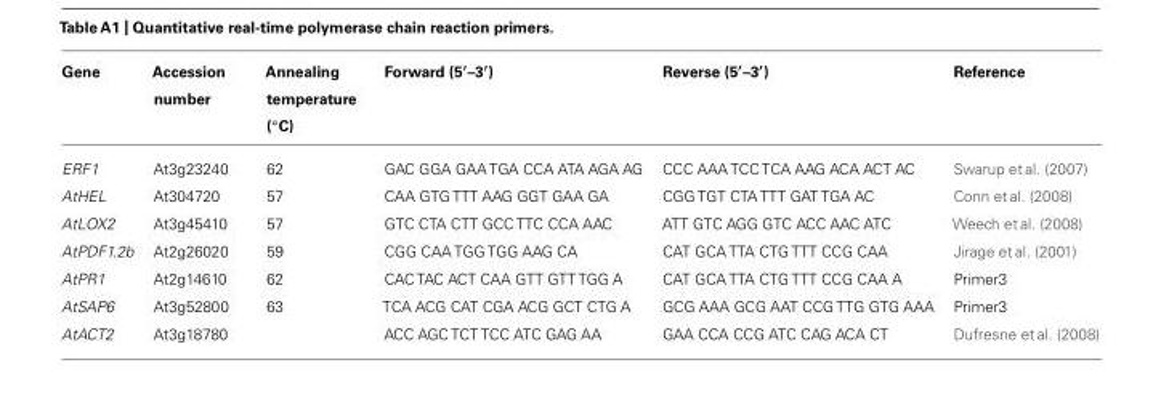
<table><thead><tr><td>Gene</td><td>Accession number</td><td>Annealing temperature (◦C)</td><td>Forward (5′–3′)</td><td>Reverse (5′–3′)</td><td>Reference</td></tr></thead><tbody><tr><td>ERF1</td><td>At3g23240</td><td>62</td><td>GAC GGA GAA TGA CCA ATA AGA AG</td><td>CCC AAA TCC TCA AAG ACA ACT AC</td><td>Swarup et al. (2007)</td></tr><tr><td>AtHEL</td><td>At304720</td><td>57</td><td>CAA GTG TTT AAG GGT GAA GA</td><td>CGG TGT CTA TTT GAT TGA AC</td><td>Conn et al. (2008)</td></tr><tr><td>AtLOX2</td><td>At3g45410</td><td>57</td><td>GTC CTA CTT GCC TTC CCA AAC</td><td>ATT GTC AGG GTC ACC AAC ATC</td><td>Weech et al. (2008)</td></tr><tr><td>AtPDF1.2b</td><td>At2g26020</td><td>59</td><td>CGG CAA TGG TGG AAG CA</td><td>CAT GCA TTA CTG TTT CCG CAA</td><td>Jirage et al. (2001)</td></tr><tr><td>AtPR1</td><td>At2g14610</td><td>62</td><td>CAC TAC ACT CAA GTT GTT TGG A</td><td>CAT GCA TTA CTG TTT CCG CAA A</td><td>Primer3</td></tr><tr><td>AtSAP6</td><td>At3g52800</td><td>63</td><td>TCA ACG CAT CGA ACG GCT CTG A</td><td>GCG AAA GCG AAT CCG TTG GTG AAA</td><td>Primer3</td></tr><tr><td>AtACT2</td><td>At3g18780</td><td></td><td>ACC AGC TCT TCC ATC GAG AA</td><td>GAA CCA CCG ATC CAG ACA CT</td><td>Dufresne et al. (2008)</td></tr></tbody></table>